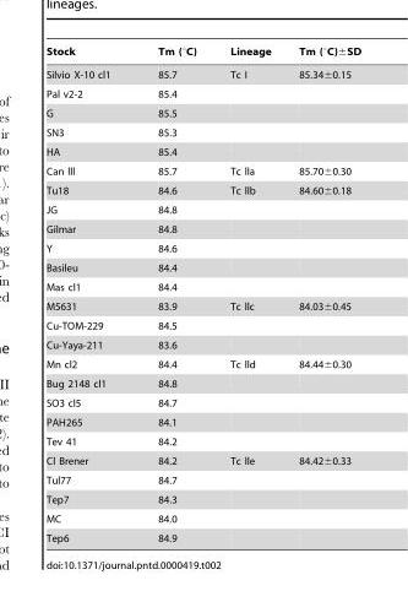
<table><thead><tr><td>Stock</td><td>Tm (°C)</td><td>Lineage</td><td>Tm (°C)±SD</td></tr></thead><tbody><tr><td>Silvio X-10 cl1</td><td>85.7</td><td>Tc I</td><td>85.34±0.15</td></tr><tr><td>Pal v2-2</td><td>85.4</td><td></td><td></td></tr><tr><td>G</td><td>85.5</td><td></td><td></td></tr><tr><td>SN3</td><td>85.3</td><td></td><td></td></tr><tr><td>HA</td><td>85.4</td><td></td><td></td></tr><tr><td>Can lll</td><td>85.7</td><td>Tc lla</td><td>85.70±0.30</td></tr><tr><td>Tu18</td><td>84.6</td><td>Tc llb</td><td>84.60±0.18</td></tr><tr><td>JG</td><td>84.8</td><td></td><td></td></tr><tr><td>Gilmar</td><td>84.8</td><td></td><td></td></tr><tr><td>Y</td><td>84.6</td><td></td><td></td></tr><tr><td>Basileu</td><td>84.4</td><td></td><td></td></tr><tr><td>Mas cl1</td><td>84.4</td><td></td><td></td></tr><tr><td>M5631</td><td>83.9</td><td>Tc llc</td><td>84.03±0.45</td></tr><tr><td>Cu-TOM-229</td><td>84.5</td><td></td><td></td></tr><tr><td>Cu-Yaya-211</td><td>83.6</td><td></td><td></td></tr><tr><td>Mn cl2</td><td>84.4</td><td>Tc lld</td><td>84.44±0.30</td></tr><tr><td>Bug 2148 cl1</td><td>84.8</td><td></td><td></td></tr><tr><td>SO3 cl5</td><td>84.7</td><td></td><td></td></tr><tr><td>PAH265</td><td>84.1</td><td></td><td></td></tr><tr><td>Tev 41</td><td>84.2</td><td></td><td></td></tr><tr><td>Cl Brener</td><td>84.2</td><td>Tc lle</td><td>84.42±0.33</td></tr><tr><td>Tul77</td><td>84.7</td><td></td><td></td></tr><tr><td>Tep7</td><td>84.3</td><td></td><td></td></tr><tr><td>MC</td><td>84.0</td><td></td><td></td></tr><tr><td>Tep6</td><td>84.9</td><td></td><td></td></tr></tbody></table>